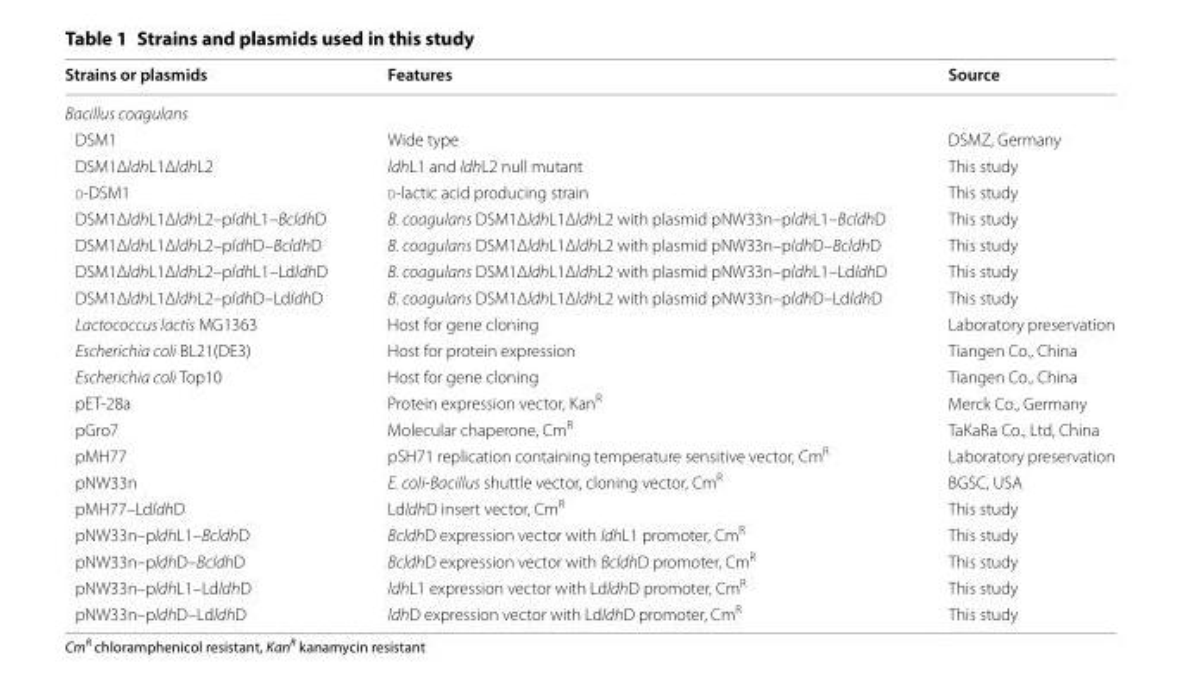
<table><thead><tr><td>Strains or plasmids</td><td>Features</td><td>Source</td></tr></thead><tbody><tr><td colspan="3">Bacillus coagulans</td></tr><tr><td>DSM1</td><td>Wide type</td><td>DSMZ, Germany</td></tr><tr><td>DSM1ΔldhL1ΔldhL2</td><td>ldhL1 and ldhL2 null mutant</td><td>This study</td></tr><tr><td>d-DSM1</td><td>d-lactic acid producing strain</td><td>This study</td></tr><tr><td>DSM1ΔldhL1ΔldhL2–pldhL1–BcldhD</td><td>B. coagulans DSM1ΔldhL1ΔldhL2 with plasmid pNW33n–pldhL1–BcldhD</td><td>This study</td></tr><tr><td>DSM1ΔldhL1ΔldhL2–pldhD–BcldhD</td><td>B. coagulans DSM1ΔldhL1ΔldhL2 with plasmid pNW33n–pldhD–BcldhD</td><td>This study</td></tr><tr><td>DSM1ΔldhL1ΔldhL2–pldhL1–LdldhD</td><td>B. coagulans DSM1ΔldhL1ΔldhL2 with plasmid pNW33n–pldhL1–LdldhD</td><td>This study</td></tr><tr><td>DSM1ΔldhL1ΔldhL2–pldhD–LdldhD</td><td>B. coagulans DSM1ΔldhL1ΔldhL2 with plasmid pNW33n–pldhD–LdldhD</td><td>This study</td></tr><tr><td>Lactococcus lactis MG1363</td><td>Host for gene cloning</td><td>Laboratory preservation</td></tr><tr><td>Escherichia coli BL21(DE3)</td><td>Host for protein expression</td><td>Tiangen Co., China</td></tr><tr><td>Escherichia coli Top10</td><td>Host for gene cloning</td><td>Tiangen Co., China</td></tr><tr><td>pET-28a</td><td>Protein expression vector, Kan<sup>R</sup></td><td>Merck Co., Germany</td></tr><tr><td>pGro7</td><td>Molecular chaperone, Cm<sup>R</sup></td><td>TaKaRa Co., Ltd, China</td></tr><tr><td>pMH77</td><td>pSH71 replication containing temperature sensitive vector, Cm<sup>R</sup></td><td>Laboratory preservation</td></tr><tr><td>pNW33n</td><td>E. coli-Bacillus shuttle vector, cloning vector, Cm<sup>R</sup></td><td>BGSC, USA</td></tr><tr><td>pMH77–LdldhD</td><td>LdldhD insert vector, Cm<sup>R</sup></td><td>This study</td></tr><tr><td>pNW33n–pldhL1–BcldhD</td><td>BcldhD expression vector with ldhL1 promoter, Cm<sup>R</sup></td><td>This study</td></tr><tr><td>pNW33n–pldhD–BcldhD</td><td>BcldhD expression vector with BcldhD promoter, Cm<sup>R</sup></td><td>This study</td></tr><tr><td>pNW33n–pldhL1–LdldhD</td><td>ldhL1 expression vector with LdldhD promoter, Cm<sup>R</sup></td><td>This study</td></tr><tr><td>pNW33n–pldhD–LdldhD</td><td>ldhD expression vector with LdldhD promoter, Cm<sup>R</sup></td><td>This study</td></tr></tbody></table>